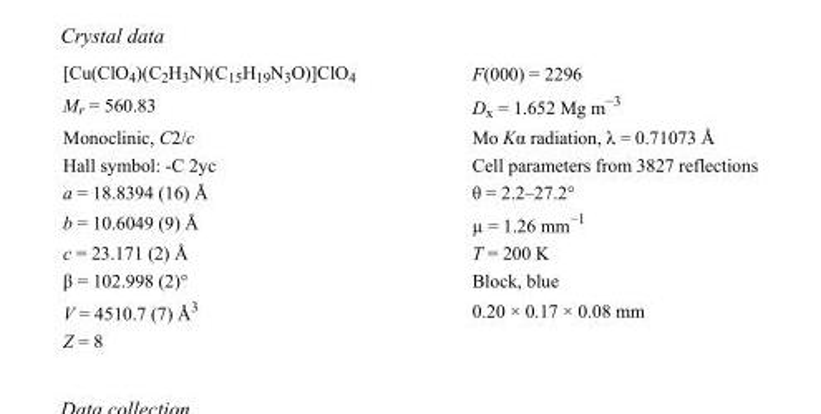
<table><tbody><tr><td>[Cu(ClO<sub>4</sub>)(C<sub>2</sub>H<sub>3</sub>N)(C<sub>15</sub>H<sub>19</sub>N<sub>3</sub>O)]ClO<sub>4</sub></td><td>F(000) = 2296</td></tr><tr><td>M<sub>r</sub> = 560.83</td><td>D<sub>x</sub> = 1.652 Mg m<sup>−3</sup></td></tr><tr><td>Monoclinic, C2/c</td><td>Mo Kα radiation, λ = 0.71073 Å</td></tr><tr><td>Hall symbol: -C 2yc</td><td>Cell parameters from 3827 reflections</td></tr><tr><td>a = 18.8394 (16) Å</td><td>θ = 2.2–27.2°</td></tr><tr><td>b = 10.6049 (9) Å</td><td>µ = 1.26 mm<sup>−1</sup></td></tr><tr><td>c = 23.171 (2) Å</td><td>T = 200 K</td></tr><tr><td>β = 102.998 (2)°</td><td>Block, blue</td></tr><tr><td>V = 4510.7 (7) Å<sup>3</sup></td><td>0.20 × 0.17 × 0.08 mm</td></tr><tr><td>Z = 8</td><td></td></tr></tbody></table>